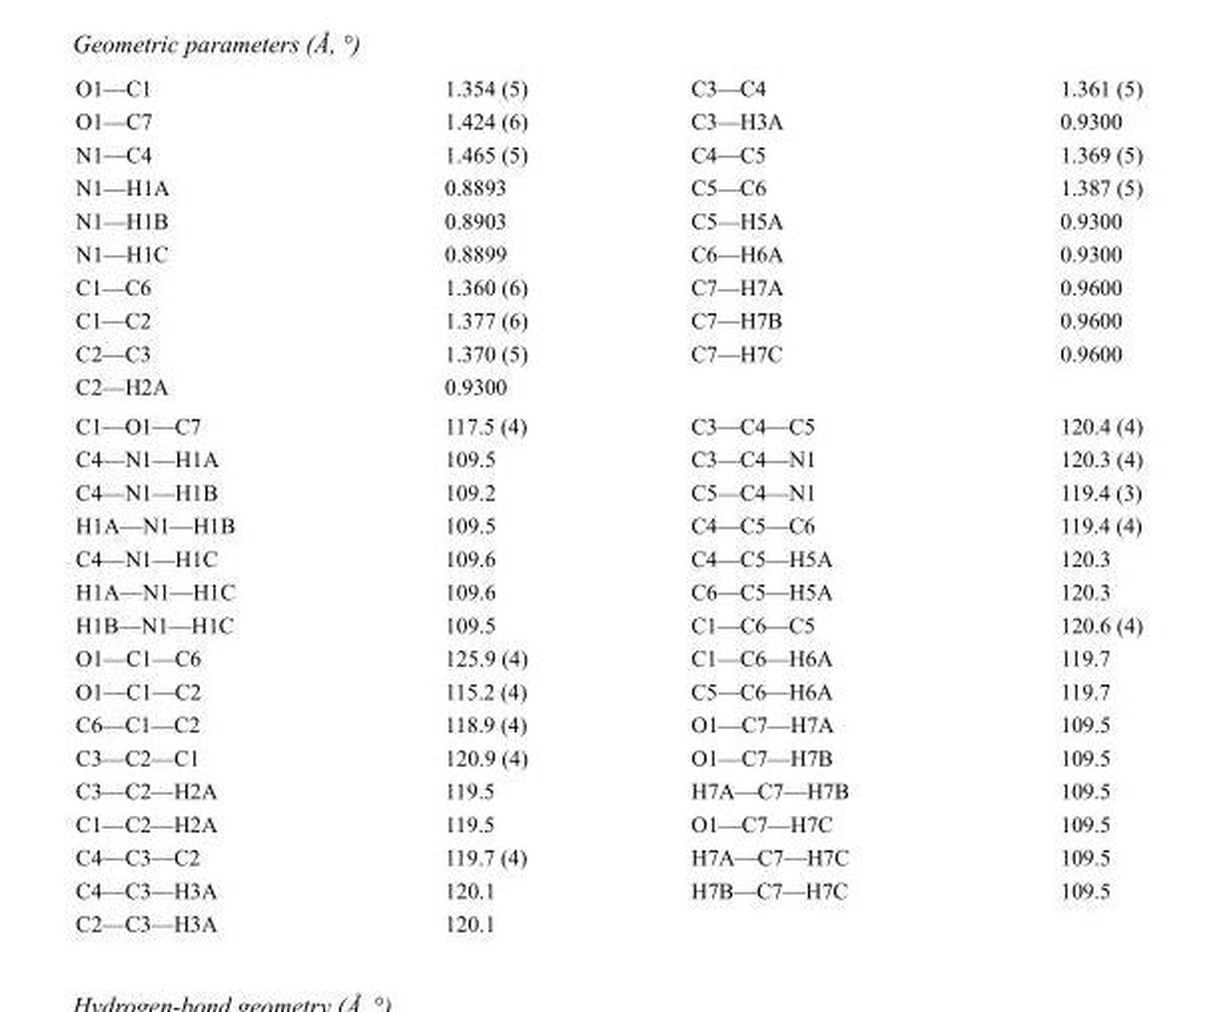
<table><tbody><tr><td>O1—C1</td><td>1.354 (5)</td><td>C3—C4</td><td>1.361 (5)</td></tr><tr><td>O1—C7</td><td>1.424 (6)</td><td>C3—H3A</td><td>0.9300</td></tr><tr><td>N1—C4</td><td>1.465 (5)</td><td>C4—C5</td><td>1.369 (5)</td></tr><tr><td>N1—H1A</td><td>0.8893</td><td>C5—C6</td><td>1.387 (5)</td></tr><tr><td>N1—H1B</td><td>0.8903</td><td>C5—H5A</td><td>0.9300</td></tr><tr><td>N1—H1C</td><td>0.8899</td><td>C6—H6A</td><td>0.9300</td></tr><tr><td>C1—C6</td><td>1.360 (6)</td><td>C7—H7A</td><td>0.9600</td></tr><tr><td>C1—C2</td><td>1.377 (6)</td><td>C7—H7B</td><td>0.9600</td></tr><tr><td>C2—C3</td><td>1.370 (5)</td><td>C7—H7C</td><td>0.9600</td></tr><tr><td>C2—H2A</td><td>0.9300</td><td></td><td></td></tr><tr><td>C1—O1—C7</td><td>117.5 (4)</td><td>C3—C4—C5</td><td>120.4 (4)</td></tr><tr><td>C4—N1—H1A</td><td>109.5</td><td>C3—C4—N1</td><td>120.3 (4)</td></tr><tr><td>C4—N1—H1B</td><td>109.2</td><td>C5—C4—N1</td><td>119.4 (3)</td></tr><tr><td>H1A—N1—H1B</td><td>109.5</td><td>C4—C5—C6</td><td>119.4 (4)</td></tr><tr><td>C4—N1—H1C</td><td>109.6</td><td>C4—C5—H5A</td><td>120.3</td></tr><tr><td>H1A—N1—H1C</td><td>109.6</td><td>C6—C5—H5A</td><td>120.3</td></tr><tr><td>H1B—N1—H1C</td><td>109.5</td><td>C1—C6—C5</td><td>120.6 (4)</td></tr><tr><td>O1—C1—C6</td><td>125.9 (4)</td><td>C1—C6—H6A</td><td>119.7</td></tr><tr><td>O1—C1—C2</td><td>115.2 (4)</td><td>C5—C6—H6A</td><td>119.7</td></tr><tr><td>C6—C1—C2</td><td>118.9 (4)</td><td>O1—C7—H7A</td><td>109.5</td></tr><tr><td>C3—C2—C1</td><td>120.9 (4)</td><td>O1—C7—H7B</td><td>109.5</td></tr><tr><td>C3—C2—H2A</td><td>119.5</td><td>H7A—C7—H7B</td><td>109.5</td></tr><tr><td>C1—C2—H2A</td><td>119.5</td><td>O1—C7—H7C</td><td>109.5</td></tr><tr><td>C4—C3—C2</td><td>119.7 (4)</td><td>H7A—C7—H7C</td><td>109.5</td></tr><tr><td>C4—C3—H3A</td><td>120.1</td><td>H7B—C7—H7C</td><td>109.5</td></tr><tr><td>C2—C3—H3A</td><td>120.1</td><td></td><td></td></tr></tbody></table>